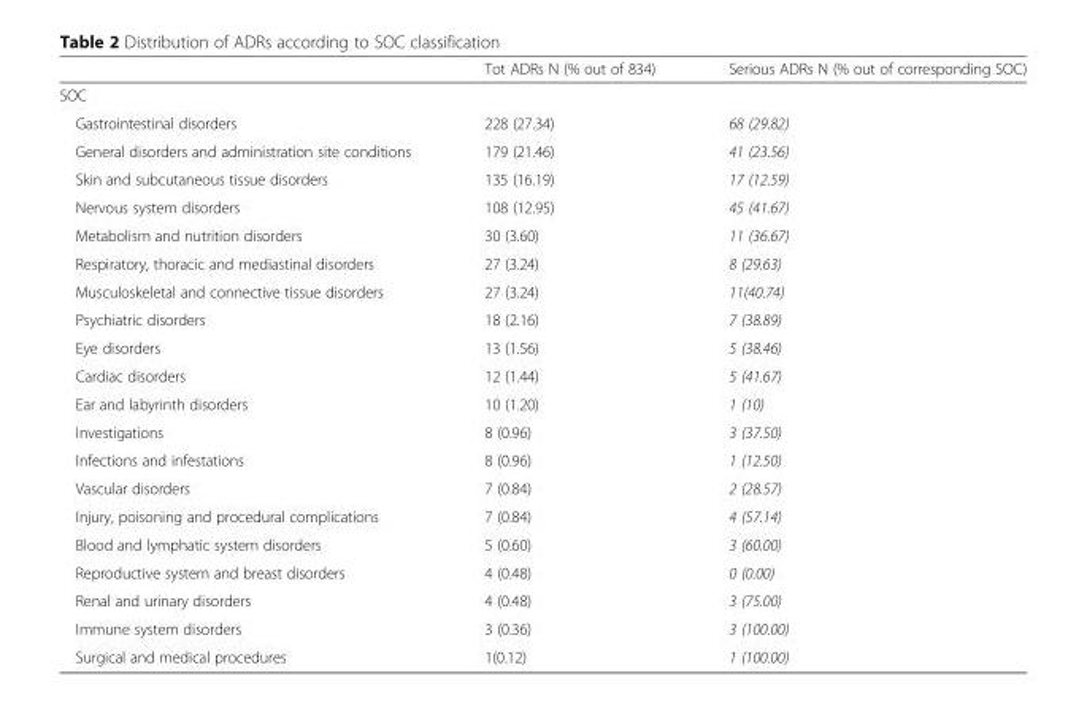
<table><thead><tr><td></td><td>Tot ADRs N (% out of 834)</td><td>Serious ADRs N (% out of corresponding SOC)</td></tr></thead><tbody><tr><td colspan="3">SOC</td></tr><tr><td>Gastrointestinal disorders</td><td>228 (27.34)</td><td>68 (29.82)</td></tr><tr><td>General disorders and administration site conditions</td><td>179 (21.46)</td><td>41 (23.56)</td></tr><tr><td>Skin and subcutaneous tissue disorders</td><td>135 (16.19)</td><td>17 (12.59)</td></tr><tr><td>Nervous system disorders</td><td>108 (12.95)</td><td>45 (41.67)</td></tr><tr><td>Metabolism and nutrition disorders</td><td>30 (3.60)</td><td>11 (36.67)</td></tr><tr><td>Respiratory, thoracic and mediastinal disorders</td><td>27 (3.24)</td><td>8 (29.63)</td></tr><tr><td>Musculoskeletal and connective tissue disorders</td><td>27 (3.24)</td><td>11(40.74)</td></tr><tr><td>Psychiatric disorders</td><td>18 (2.16)</td><td>7 (38.89)</td></tr><tr><td>Eye disorders</td><td>13 (1.56)</td><td>5 (38.46)</td></tr><tr><td>Cardiac disorders</td><td>12 (1.44)</td><td>5 (41.67)</td></tr><tr><td>Ear and labyrinth disorders</td><td>10 (1.20)</td><td>1 (10)</td></tr><tr><td>Investigations</td><td>8 (0.96)</td><td>3 (37.50)</td></tr><tr><td>Infections and infestations</td><td>8 (0.96)</td><td>1 (12.50)</td></tr><tr><td>Vascular disorders</td><td>7 (0.84)</td><td>2 (28.57)</td></tr><tr><td>Injury, poisoning and procedural complications</td><td>7 (0.84)</td><td>4 (57.14)</td></tr><tr><td>Blood and lymphatic system disorders</td><td>5 (0.60)</td><td>3 (60.00)</td></tr><tr><td>Reproductive system and breast disorders</td><td>4 (0.48)</td><td>0 (0.00)</td></tr><tr><td>Renal and urinary disorders</td><td>4 (0.48)</td><td>3 (75.00)</td></tr><tr><td>Immune system disorders</td><td>3 (0.36)</td><td>3 (100.00)</td></tr><tr><td>Surgical and medical procedures</td><td>1(0.12)</td><td>1 (100.00)</td></tr></tbody></table>